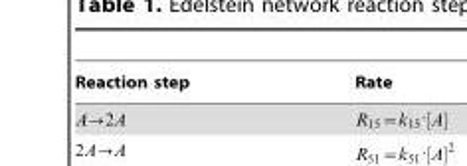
<table><thead><tr><td>Reaction step</td><td>Rate</td></tr></thead><tbody></tbody></table>